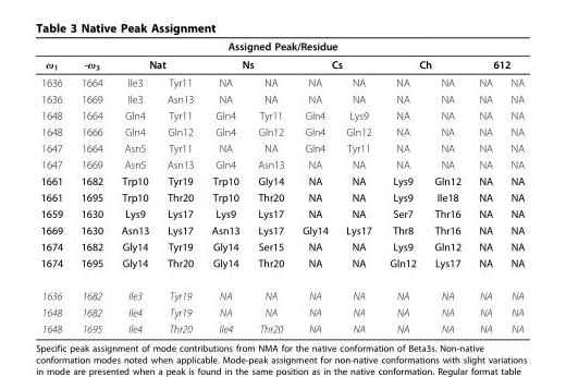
<table><thead><tr><td colspan="12">Assigned Peak/Residue</td></tr><tr><td rowspan="2">ω1 1636</td><td rowspan="2">-ω3 1664</td><td colspan="2">Nat</td><td colspan="2">Ns</td><td colspan="2">Cs</td><td colspan="2">Ch</td><td colspan="2">612</td></tr><tr><td>Ile3</td><td>Tyr11</td><td>NA</td><td>NA</td><td>NA</td><td>NA</td><td>NA</td><td>NA</td><td>NA</td><td>NA</td></tr></thead><tbody><tr><td>1636</td><td>1669</td><td>Ile3</td><td>Asn13</td><td>NA</td><td>NA</td><td>NA</td><td>NA</td><td>NA</td><td>NA</td><td>NA</td><td>NA</td></tr><tr><td>1648</td><td>1664</td><td>Gln4</td><td>Tyr11</td><td>Gln4</td><td>Tyr11</td><td>Gln4</td><td>Lys9</td><td>NA</td><td>NA</td><td>NA</td><td>NA</td></tr><tr><td>1648</td><td>1666</td><td>Gln4</td><td>Gln12</td><td>Gln4</td><td>Gln12</td><td>Gln4</td><td>Gln12</td><td>NA</td><td>NA</td><td>NA</td><td>NA</td></tr><tr><td>1647</td><td>1664</td><td>Asn5</td><td>Tyr11</td><td>NA</td><td>NA</td><td>Gln4</td><td>Tyr11</td><td>NA</td><td>NA</td><td>NA</td><td>NA</td></tr><tr><td>1647</td><td>1669</td><td>Asn5</td><td>Asn13</td><td>Gln4</td><td>Asn13</td><td>NA</td><td>NA</td><td>NA</td><td>NA</td><td>NA</td><td>NA</td></tr><tr><td>1661</td><td>1682</td><td>Trp10</td><td>Tyr19</td><td>Trp10</td><td>Gly14</td><td>NA</td><td>NA</td><td>Lys9</td><td>Gln12</td><td>NA</td><td>NA</td></tr><tr><td>1661</td><td>1695</td><td>Trp10</td><td>Thr20</td><td>Trp10</td><td>Thr20</td><td>NA</td><td>NA</td><td>Lys9</td><td>Ile18</td><td>NA</td><td>NA</td></tr><tr><td>1659</td><td>1630</td><td>Lys9</td><td>Lys17</td><td>Lys9</td><td>Lys17</td><td>NA</td><td>NA</td><td>Ser7</td><td>Thr16</td><td>NA</td><td>NA</td></tr><tr><td>1669</td><td>1630</td><td>Asn13</td><td>Lys17</td><td>Asn13</td><td>Lys17</td><td>Gly14</td><td>Lys17</td><td>Thr8</td><td>Thr16</td><td>NA</td><td>NA</td></tr><tr><td>1674</td><td>1682</td><td>Gly14</td><td>Tyr19</td><td>Gly14</td><td>Ser15</td><td>NA</td><td>NA</td><td>Lys9</td><td>Gln12</td><td>NA</td><td>NA</td></tr><tr><td>1674</td><td>1695</td><td>Gly14</td><td>Thr20</td><td>Gly14</td><td>Thr20</td><td>NA</td><td>NA</td><td>Gln12</td><td>Lys17</td><td>NA</td><td>NA</td></tr><tr><td>1636</td><td>1682</td><td>Ile3</td><td>Tyr19</td><td>NA</td><td>NA</td><td>NA</td><td>NA</td><td>NA</td><td>NA</td><td>NA</td><td>NA</td></tr><tr><td>1648</td><td>1682</td><td>Ile4</td><td>Tyr19</td><td>NA</td><td>NA</td><td>NA</td><td>NA</td><td>NA</td><td>NA</td><td>NA</td><td>NA</td></tr><tr><td>1648</td><td>1695</td><td>Ile4</td><td>Thr20</td><td>Ile4</td><td>Thr20</td><td>NA</td><td>NA</td><td>NA</td><td>NA</td><td>NA</td><td>NA</td></tr></tbody></table>